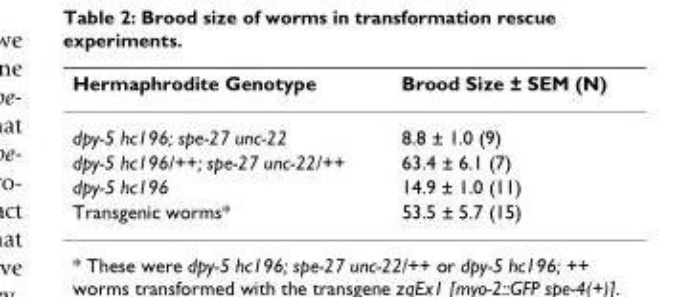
<table><thead><tr><td>Hermaphrodite Genotype</td><td>Brood Size ± SEM (N)</td></tr></thead><tbody><tr><td>dpy-5 hc196; spe-27 unc-22</td><td>8.8 ± 1.0 (9)</td></tr><tr><td>dpy-5 hc196/++; spe-27 unc-22/++</td><td>63.4 ± 6.1 (7)</td></tr><tr><td>dpy-5 hc196</td><td>14.9 ± 1.0 (11)</td></tr><tr><td>Transgenic worms*</td><td>53.5 ± 5.7 (15)</td></tr></tbody></table>